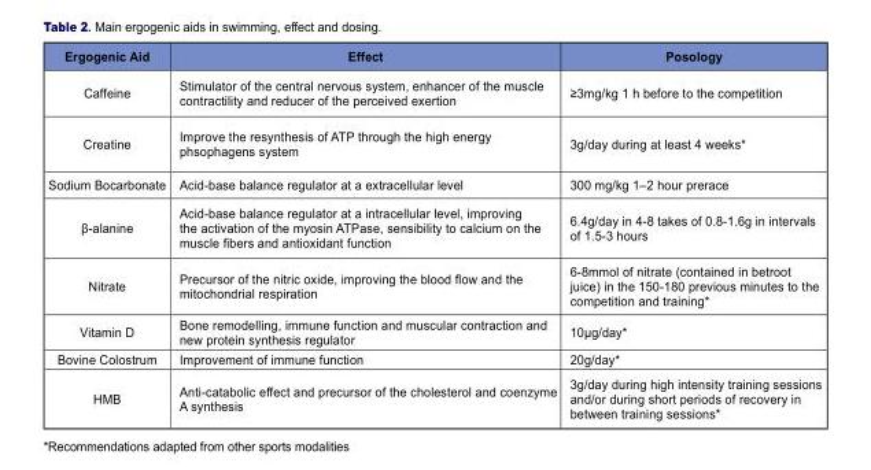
<table><thead><tr><td>Ergogenic Aid</td><td>Effect</td><td>Posology</td></tr></thead><tbody><tr><td>Caffeine</td><td>Stimulator of the central nervous system, enhancer of the muscle contractility and reducer of the perceived exertion</td><td>≥3mg/kg 1 h before to the competition</td></tr><tr><td>Creatine</td><td>Improve the resynthesis of ATP through the high energy phsophagens system</td><td>3g/day during at least 4 weeks*</td></tr><tr><td>Sodium Bocarbonate</td><td>Acid-base balance regulator at a extracellular level</td><td>300 mg/kg 1–2 hour prerace</td></tr><tr><td>β-alanine</td><td>Acid-base balance regulator at a intracellular level, improving the activation of the myosin ATPase, sensibility to calcium on the muscle fibers and antioxidant function</td><td>6.4g/day in 4-8 takes of 0.8-1.6g in intervals of 1.5-3 hours</td></tr><tr><td>Nitrate</td><td>Precursor of the nitric oxide, improving the blood flow and the mitochondrial respiration</td><td>6-8mmol of nitrate (contained in betroot juice) in the 150-180 previous minutes to the competition and training*</td></tr><tr><td>Vitamin D</td><td>Bone remodelling, immune function and muscular contraction and new protein synthesis regulator</td><td>10µg/day*</td></tr><tr><td>Bovine Colostrum</td><td>Improvement of immune function</td><td>20g/day*</td></tr><tr><td>HMB</td><td>Anti-catabolic effect and precursor of the cholesterol and coenzyme A synthesis</td><td>3g/day during high intensity training sessions and/or during short periods of recovery in between training sessions*</td></tr></tbody></table>